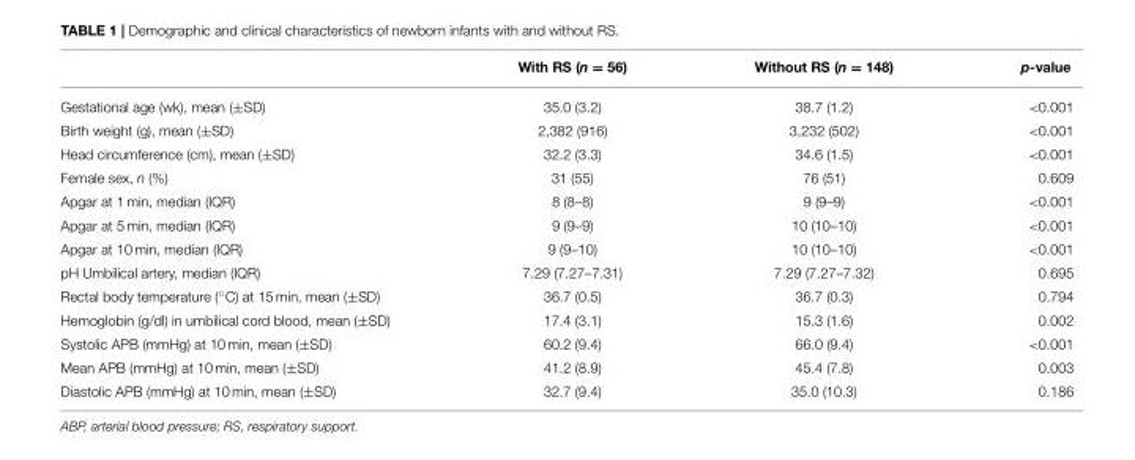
<table><thead><tr><td></td><td>With RS (n = 56)</td><td>Without RS (n = 148)</td><td>p-value</td></tr></thead><tbody><tr><td>Gestational age (wk), mean (±SD)</td><td>35.0 (3.2)</td><td>38.7 (1.2)</td><td>&lt;0.001</td></tr><tr><td>Birth weight (g), mean (±SD)</td><td>2,382 (916)</td><td>3,232 (502)</td><td>&lt;0.001</td></tr><tr><td>Head circumference (cm), mean (±SD)</td><td>32.2 (3.3)</td><td>34.6 (1.5)</td><td>&lt;0.001</td></tr><tr><td>Female sex, n (%)</td><td>31 (55)</td><td>76 (51)</td><td>0.609</td></tr><tr><td>Apgar at 1 min, median (IQR)</td><td>8 (8–8)</td><td>9 (9–9)</td><td>&lt;0.001</td></tr><tr><td>Apgar at 5 min, median (IQR)</td><td>9 (9–9)</td><td>10 (10–10)</td><td>&lt;0.001</td></tr><tr><td>Apgar at 10 min, median (IQR)</td><td>9 (9–10)</td><td>10 (10–10)</td><td>&lt;0.001</td></tr><tr><td>pH Umbilical artery, median (IQR)</td><td>7.29 (7.27–7.31)</td><td>7.29 (7.27–7.32)</td><td>0.695</td></tr><tr><td>Rectal body temperature (◦C) at 15 min, mean (±SD)</td><td>36.7 (0.5)</td><td>36.7 (0.3)</td><td>0.794</td></tr><tr><td>Hemoglobin (g/dl) in umbilical cord blood, mean (±SD)</td><td>17.4 (3.1)</td><td>15.3 (1.6)</td><td>0.002</td></tr><tr><td>Systolic APB (mmHg) at 10 min, mean (±SD)</td><td>60.2 (9.4)</td><td>66.0 (9.4)</td><td>&lt;0.001</td></tr><tr><td>Mean APB (mmHg) at 10 min, mean (±SD)</td><td>41.2 (8.9)</td><td>45.4 (7.8)</td><td>0.003</td></tr><tr><td>Diastolic APB (mmHg) at 10 min, mean (±SD)</td><td>32.7 (9.4)</td><td>35.0 (10.3)</td><td>0.186</td></tr></tbody></table>